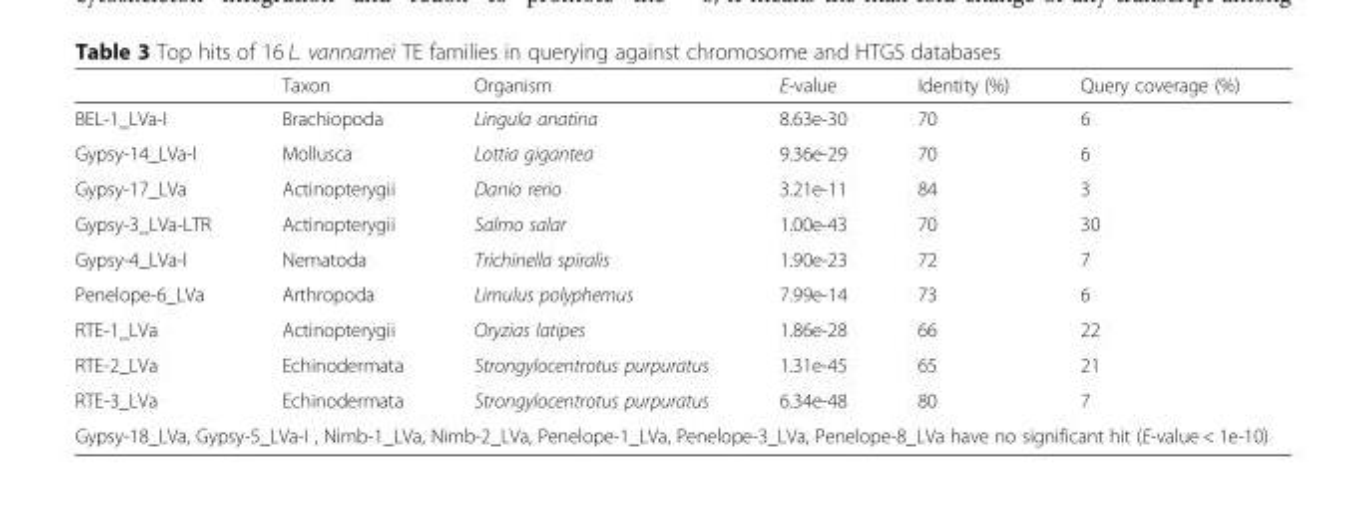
<table><thead><tr><td></td><td>Taxon</td><td>Organism</td><td>E-value</td><td>Identity (%)</td><td>Query coverage (%)</td></tr></thead><tbody><tr><td>BEL-1_LVa-I</td><td>Brachiopoda</td><td>Lingula anatina</td><td>8.63e-30</td><td>70</td><td>6</td></tr><tr><td>Gypsy-14_LVa-I</td><td>Mollusca</td><td>Lottia gigantea</td><td>9.36e-29</td><td>70</td><td>6</td></tr><tr><td>Gypsy-17_LVa</td><td>Actinopterygii</td><td>Danio rerio</td><td>3.21e-11</td><td>84</td><td>3</td></tr><tr><td>Gypsy-3_LVa-LTR</td><td>Actinopterygii</td><td>Salmo salar</td><td>1.00e-43</td><td>70</td><td>30</td></tr><tr><td>Gypsy-4_LVa-I</td><td>Nematoda</td><td>Trichinella spiralis</td><td>1.90e-23</td><td>72</td><td>7</td></tr><tr><td>Penelope-6_LVa</td><td>Arthropoda</td><td>Limulus polyphemus</td><td>7.99e-14</td><td>73</td><td>6</td></tr><tr><td>RTE-1_LVa</td><td>Actinopterygii</td><td>Oryzias latipes</td><td>1.86e-28</td><td>66</td><td>22</td></tr><tr><td>RTE-2_LVa</td><td>Echinodermata</td><td>Strongylocentrotus purpuratus</td><td>1.31e-45</td><td>65</td><td>21</td></tr><tr><td>RTE-3_LVa</td><td>Echinodermata</td><td>Strongylocentrotus purpuratus</td><td>6.34e-48</td><td>80</td><td>7</td></tr><tr><td colspan="6">Gypsy-18_LVa, Gypsy-5_LVa-I , Nimb-1_LVa, Nimb-2_LVa, Penelope-1_LVa, Penelope-3_LVa, Penelope-8_LVa have no significant hit (E-value &lt; 1e-10)</td></tr></tbody></table>